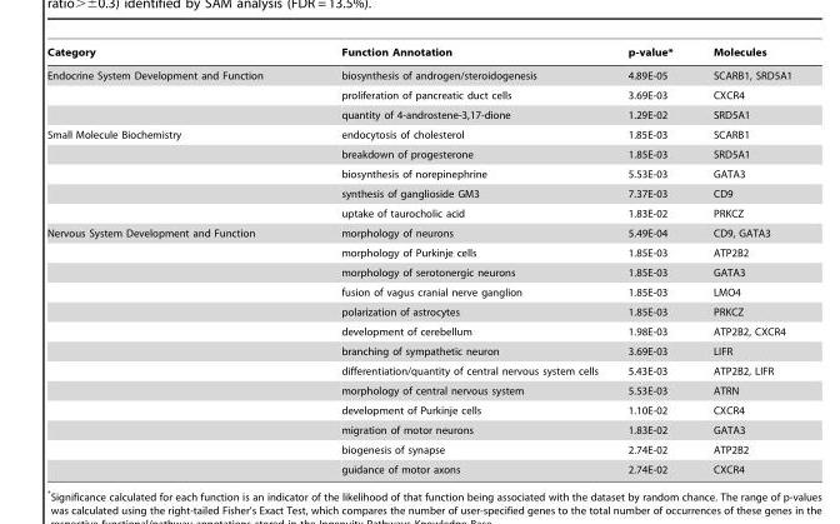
<table><thead><tr><td>Category</td><td>Function Annotation</td><td>p-value*</td><td>Molecules</td></tr></thead><tbody><tr><td rowspan="3">Endocrine System Development and Function</td><td>biosynthesis of androgen/steroidogenesis</td><td>4.89E-05</td><td>SCARB1, SRD5A1</td></tr><tr><td>proliferation of pancreatic duct cells</td><td>3.69E-03</td><td>CXCR4</td></tr><tr><td>quantity of 4-androstene-3,17-dione</td><td>1.29E-02</td><td>SRD5A1</td></tr><tr><td rowspan="5">Small Molecule Biochemistry</td><td>endocytosis of cholesterol</td><td>1.85E-03</td><td>SCARB1</td></tr><tr><td>breakdown of progesterone</td><td>1.85E-03</td><td>SRD5A1</td></tr><tr><td>biosynthesis of norepinephrine</td><td>5.53E-03</td><td>GATA3</td></tr><tr><td>synthesis of ganglioside GM3</td><td>7.37E-03</td><td>CD9</td></tr><tr><td>uptake of taurocholic acid</td><td>1.83E-02</td><td>PRKCZ</td></tr><tr><td rowspan="13">Nervous System Development and Function</td><td>morphology of neurons</td><td>5.49E-04</td><td>CD9, GATA3</td></tr><tr><td>morphology of Purkinje cells</td><td>1.85E-03</td><td>ATP2B2</td></tr><tr><td>morphology of serotonergic neurons</td><td>1.85E-03</td><td>GATA3</td></tr><tr><td>fusion of vagus cranial nerve ganglion</td><td>1.85E-03</td><td>LMO4</td></tr><tr><td>polarization of astrocytes</td><td>1.85E-03</td><td>PRKCZ</td></tr><tr><td>development of cerebellum</td><td>1.98E-03</td><td>ATP2B2, CXCR4</td></tr><tr><td>branching of sympathetic neuron</td><td>3.69E-03</td><td>LIFR</td></tr><tr><td>differentiation/quantity of central nervous system cells</td><td>5.43E-03</td><td>ATP2B2, LIFR</td></tr><tr><td>morphology of central nervous system</td><td>5.53E-03</td><td>ATRN</td></tr><tr><td>development of Purkinje cells</td><td>1.10E-02</td><td>CXCR4</td></tr><tr><td>migration of motor neurons</td><td>1.83E-02</td><td>GATA3</td></tr><tr><td>biogenesis of synapse</td><td>2.74E-02</td><td>ATP2B2</td></tr><tr><td>guidance of motor axons</td><td>2.74E-02</td><td>CXCR4</td></tr></tbody></table>